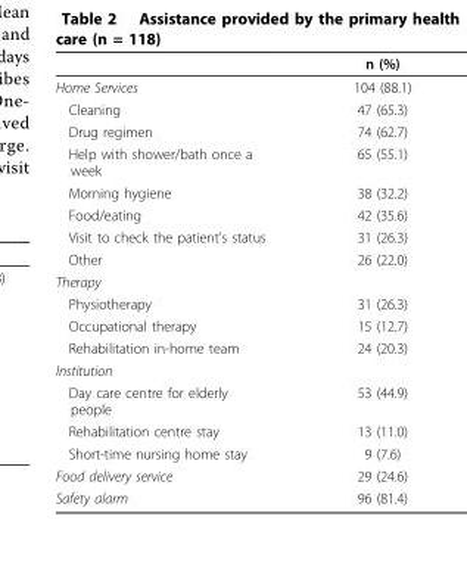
<table><thead><tr><td></td><td>n (%)</td></tr></thead><tbody><tr><td>Home Services</td><td>104 (88.1)</td></tr><tr><td>Cleaning</td><td>47 (65.3)</td></tr><tr><td>Drug regimen</td><td>74 (62.7)</td></tr><tr><td>Help with shower/bath once a week</td><td>65 (55.1)</td></tr><tr><td>Morning hygiene</td><td>38 (32.2)</td></tr><tr><td>Food/eating</td><td>42 (35.6)</td></tr><tr><td>Visit to check the patient&#x27;s status</td><td>31 (26.3)</td></tr><tr><td>Other</td><td>26 (22.0)</td></tr><tr><td colspan="2">Therapy</td></tr><tr><td>Physiotherapy</td><td>31 (26.3)</td></tr><tr><td>Occupational therapy</td><td>15 (12.7)</td></tr><tr><td>Rehabilitation in-home team</td><td>24 (20.3)</td></tr><tr><td colspan="2">Institution</td></tr><tr><td>Day care centre for elderly people</td><td>53 (44.9)</td></tr><tr><td>Rehabilitation centre stay</td><td>13 (11.0)</td></tr><tr><td>Short-time nursing home stay</td><td>9 (7.6)</td></tr><tr><td>Food delivery service</td><td>29 (24.6)</td></tr><tr><td>Safety alarm</td><td>96 (81.4)</td></tr></tbody></table>